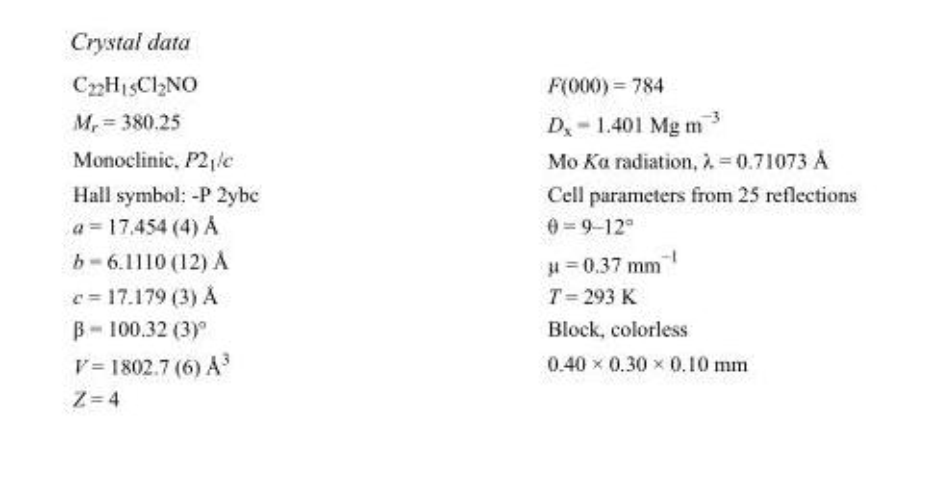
<table><tbody><tr><td>C<sub>22</sub>H<sub>15</sub>Cl<sub>2</sub>NO</td><td>F(000) = 784</td></tr><tr><td>M<sub>r</sub> = 380.25</td><td>D<sub>x</sub> = 1.401 Mg m<sup>−3</sup></td></tr><tr><td>Monoclinic, P2<sub>1</sub>/c</td><td>Mo Kα radiation, λ = 0.71073 Å</td></tr><tr><td>Hall symbol: -P 2ybc</td><td>Cell parameters from 25 reflections</td></tr><tr><td>a = 17.454 (4) Å</td><td>θ = 9–12°</td></tr><tr><td>b = 6.1110 (12) Å</td><td>µ = 0.37 mm<sup>−1</sup></td></tr><tr><td>c = 17.179 (3) Å</td><td>T = 293 K</td></tr><tr><td>β = 100.32 (3)°</td><td>Block, colorless</td></tr><tr><td>V = 1802.7 (6) Å<sup>3</sup></td><td>0.40 × 0.30 × 0.10 mm</td></tr><tr><td>Z = 4</td><td></td></tr></tbody></table>